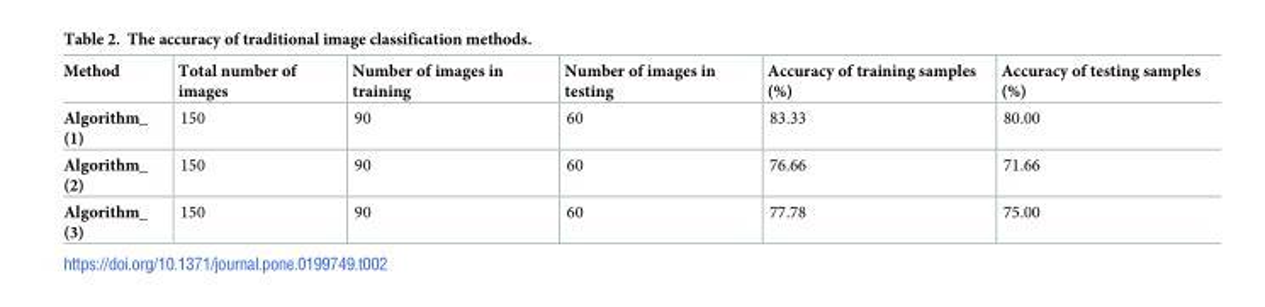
<table><thead><tr><td>Method</td><td>Total number of images</td><td>Number of images in training</td><td>Number of images in testing</td><td>Accuracy of training samples (%)</td><td>Accuracy of testing samples (%)</td></tr></thead><tbody><tr><td>Algorithm_ (1)</td><td>150</td><td>90</td><td>60</td><td>83.33</td><td>80.00</td></tr><tr><td>Algorithm_ (2)</td><td>150</td><td>90</td><td>60</td><td>76.66</td><td>71.66</td></tr><tr><td>Algorithm_ (3)</td><td>150</td><td>90</td><td>60</td><td>77.78</td><td>75.00</td></tr></tbody></table>